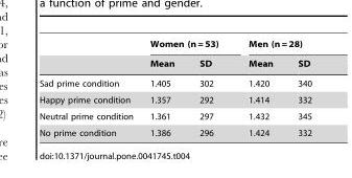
<table><thead><tr><td rowspan="2"></td><td colspan="2">Women (n = 53)</td><td colspan="2">Men (n = 28)</td></tr><tr><td>Mean</td><td>SD</td><td>Mean</td><td>SD</td></tr></thead><tbody><tr><td>Sad prime condition</td><td>1.405</td><td>302</td><td>1.420</td><td>340</td></tr><tr><td>Happy prime condition</td><td>1.357</td><td>292</td><td>1.414</td><td>332</td></tr><tr><td>Neutral prime condition</td><td>1.361</td><td>297</td><td>1.432</td><td>345</td></tr><tr><td>No prime condition</td><td>1.386</td><td>296</td><td>1.424</td><td>332</td></tr></tbody></table>